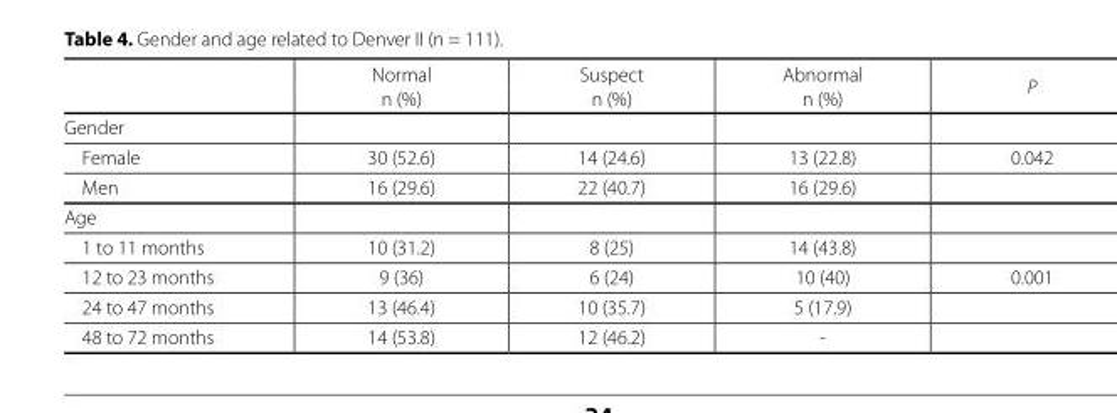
<table><thead><tr><td></td><td>Normal n (%)</td><td>Suspect n (%)</td><td>Abnormal n (%)</td><td>P</td></tr></thead><tbody><tr><td colspan="5">Gender</td></tr><tr><td>Female</td><td>30 (52.6)</td><td>14 (24.6)</td><td>13 (22.8)</td><td>0.042</td></tr><tr><td>Men</td><td>16 (29.6)</td><td>22 (40.7)</td><td>16 (29.6)</td><td></td></tr><tr><td colspan="5">Age</td></tr><tr><td>1 to 11 months</td><td>10 (31.2)</td><td>8 (25)</td><td>14 (43.8)</td><td></td></tr><tr><td>12 to 23 months</td><td>9 (36)</td><td>6 (24)</td><td>10 (40)</td><td>0.001</td></tr><tr><td>24 to 47 months</td><td>13 (46.4)</td><td>10 (35.7)</td><td>5 (17.9)</td><td></td></tr><tr><td>48 to 72 months</td><td>14 (53.8)</td><td>12 (46.2)</td><td>-</td><td></td></tr></tbody></table>